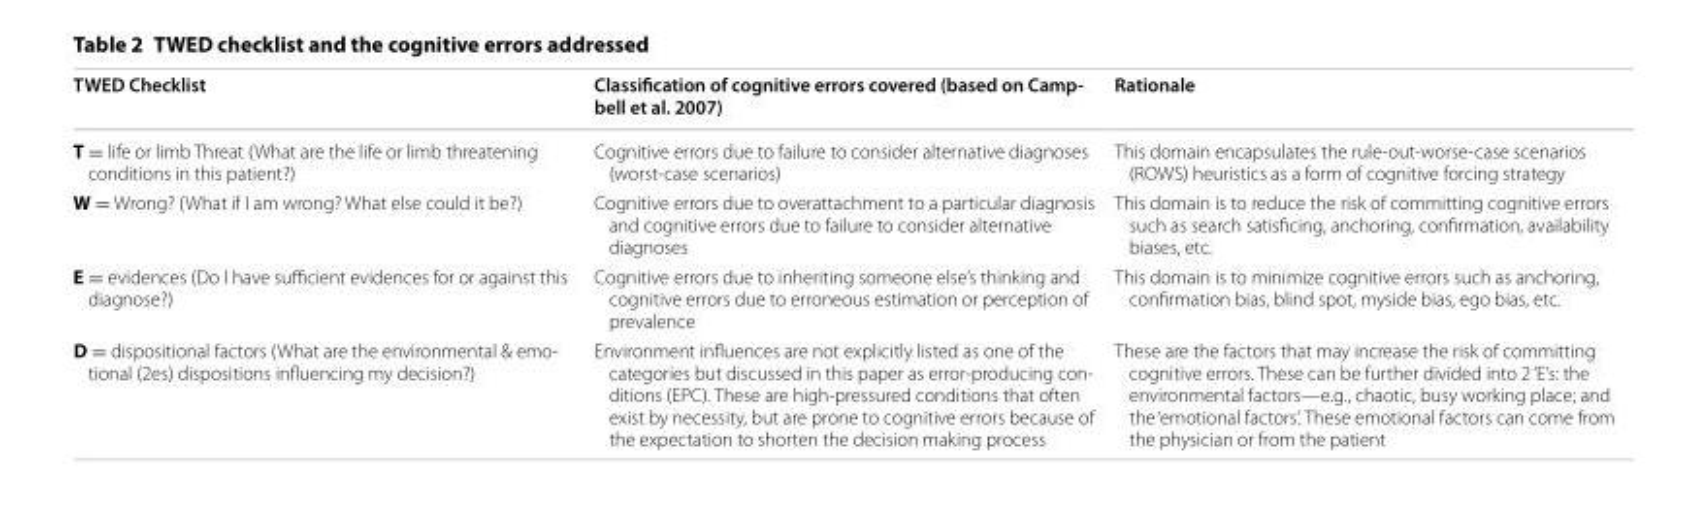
<table><thead><tr><td>TWED Checklist</td><td>Classification of cognitive errors covered (based on Camp- bell et al. 2007)</td><td>Rationale</td></tr></thead><tbody><tr><td>T = life or limb Threat (What are the life or limb threatening conditions in this patient?)</td><td>Cognitive errors due to failure to consider alternative diagnoses (worst-case scenarios)</td><td>This domain encapsulates the rule-out-worse-case scenarios (ROWS) heuristics as a form of cognitive forcing strategy</td></tr><tr><td>W = Wrong? (What if I am wrong? What else could it be?)</td><td>Cognitive errors due to overattachment to a particular diagnosis and cognitive errors due to failure to consider alternative diagnoses</td><td>This domain is to reduce the risk of committing cognitive errors such as search satisficing, anchoring, confirmation, availability biases, etc.</td></tr><tr><td>E = evidences (Do I have sufficient evidences for or against this diagnose?)</td><td>Cognitive errors due to inheriting someone else’s thinking and cognitive errors due to erroneous estimation or perception of prevalence</td><td>This domain is to minimize cognitive errors such as anchoring, confirmation bias, blind spot, myside bias, ego bias, etc.</td></tr><tr><td>D = dispositional factors (What are the environmental &amp; emo- tional (2es) dispositions influencing my decision?)</td><td>Environment influences are not explicitly listed as one of the categories but discussed in this paper as error-producing con- ditions (EPC). These are high-pressured conditions that often exist by necessity, but are prone to cognitive errors because of the expectation to shorten the decision making process</td><td>These are the factors that may increase the risk of committing cognitive errors. These can be further divided into 2 ‘E’s: the environmental factors—e.g., chaotic, busy working place; and the ‘emotional factors’. These emotional factors can come from the physician or from the patient</td></tr></tbody></table>